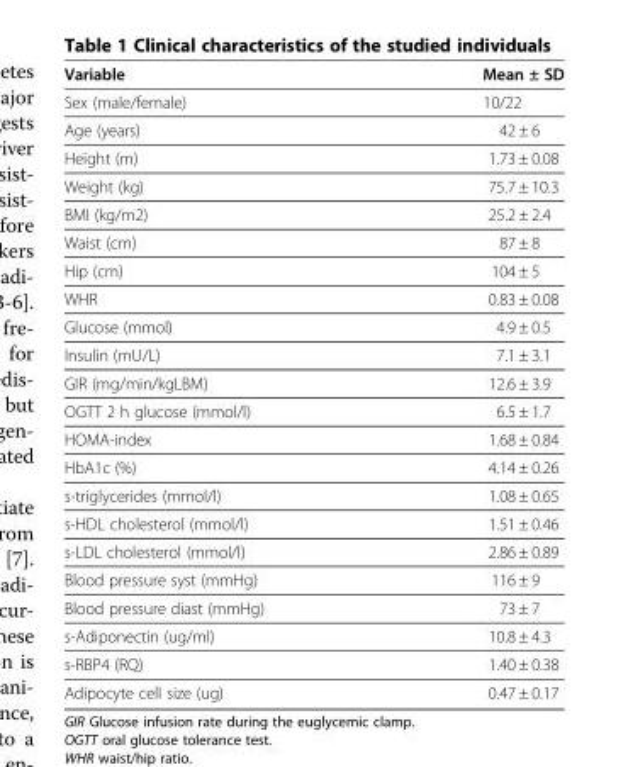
<table><thead><tr><td>Variable</td><td>Mean ± SD</td></tr></thead><tbody><tr><td>Sex (male/female)</td><td>10/22</td></tr><tr><td>Age (years)</td><td>42 ± 6</td></tr><tr><td>Height (m)</td><td>1.73 ± 0.08</td></tr><tr><td>Weight (kg)</td><td>75.7 ± 10.3</td></tr><tr><td>BMI (kg/m2)</td><td>25.2 ± 2.4</td></tr><tr><td>Waist (cm)</td><td>87 ± 8</td></tr><tr><td>Hip (cm)</td><td>104 ± 5</td></tr><tr><td>WHR</td><td>0.83 ± 0.08</td></tr><tr><td>Glucose (mmol)</td><td>4.9 ± 0.5</td></tr><tr><td>Insulin (mU/L)</td><td>7.1 ± 3.1</td></tr><tr><td>GIR (mg/min/kgLBM)</td><td>12.6 ± 3.9</td></tr><tr><td>OGTT 2 h glucose (mmol/l)</td><td>6.5 ± 1.7</td></tr><tr><td>HOMA-index</td><td>1.68 ± 0.84</td></tr><tr><td>HbA1c (%)</td><td>4.14 ± 0.26</td></tr><tr><td>s-triglycerides (mmol/l)</td><td>1.08 ± 0.65</td></tr><tr><td>s-HDL cholesterol (mmol/l)</td><td>1.51 ± 0.46</td></tr><tr><td>s-LDL cholesterol (mmol/l)</td><td>2.86 ± 0.89</td></tr><tr><td>Blood pressure syst (mmHg)</td><td>116 ± 9</td></tr><tr><td>Blood pressure diast (mmHg)</td><td>73 ± 7</td></tr><tr><td>s-Adiponectin (ug/ml)</td><td>10.8 ± 4.3</td></tr><tr><td>s-RBP4 (RQ)</td><td>1.40 ± 0.38</td></tr><tr><td>Adipocyte cell size (ug)</td><td>0.47 ± 0.17</td></tr></tbody></table>